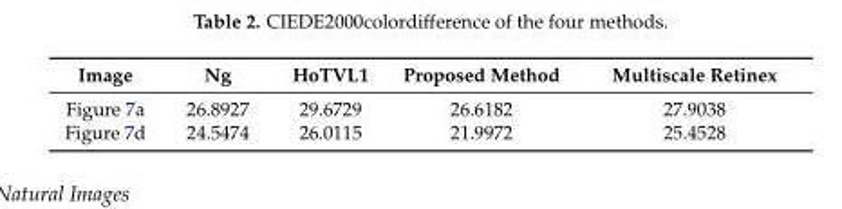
<table><thead><tr><td>Image</td><td>Ng</td><td>HoTVL1</td><td>Proposed Method</td><td>Multiscale Retinex</td></tr></thead><tbody><tr><td>Figure 7a</td><td>26.8927</td><td>29.6729</td><td>26.6182</td><td>27.9038</td></tr><tr><td>Figure 7d</td><td>24.5474</td><td>26.0115</td><td>21.9972</td><td>25.4528</td></tr></tbody></table>